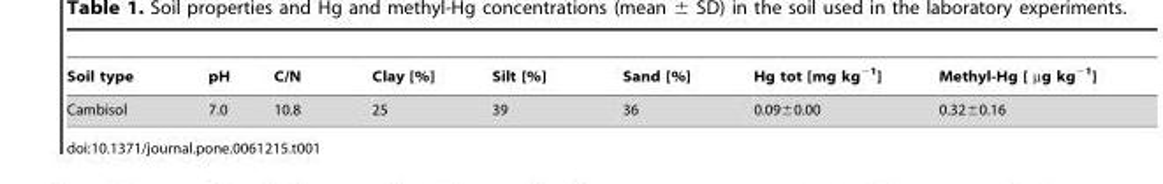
<table><thead><tr><td>Soil type</td><td>pH</td><td>C/N</td><td>Clay [%]</td><td>Silt [%]</td><td>Sand [%]</td><td>Hg tot [mg kg<sup>−1</sup>]</td><td>Methyl-Hg [ µg kg<sup>−1</sup>]</td></tr></thead><tbody><tr><td>Cambisol</td><td>7.0</td><td>10.8</td><td>25</td><td>39</td><td>36</td><td>0.09±0.00</td><td>0.32±0.16</td></tr></tbody></table>